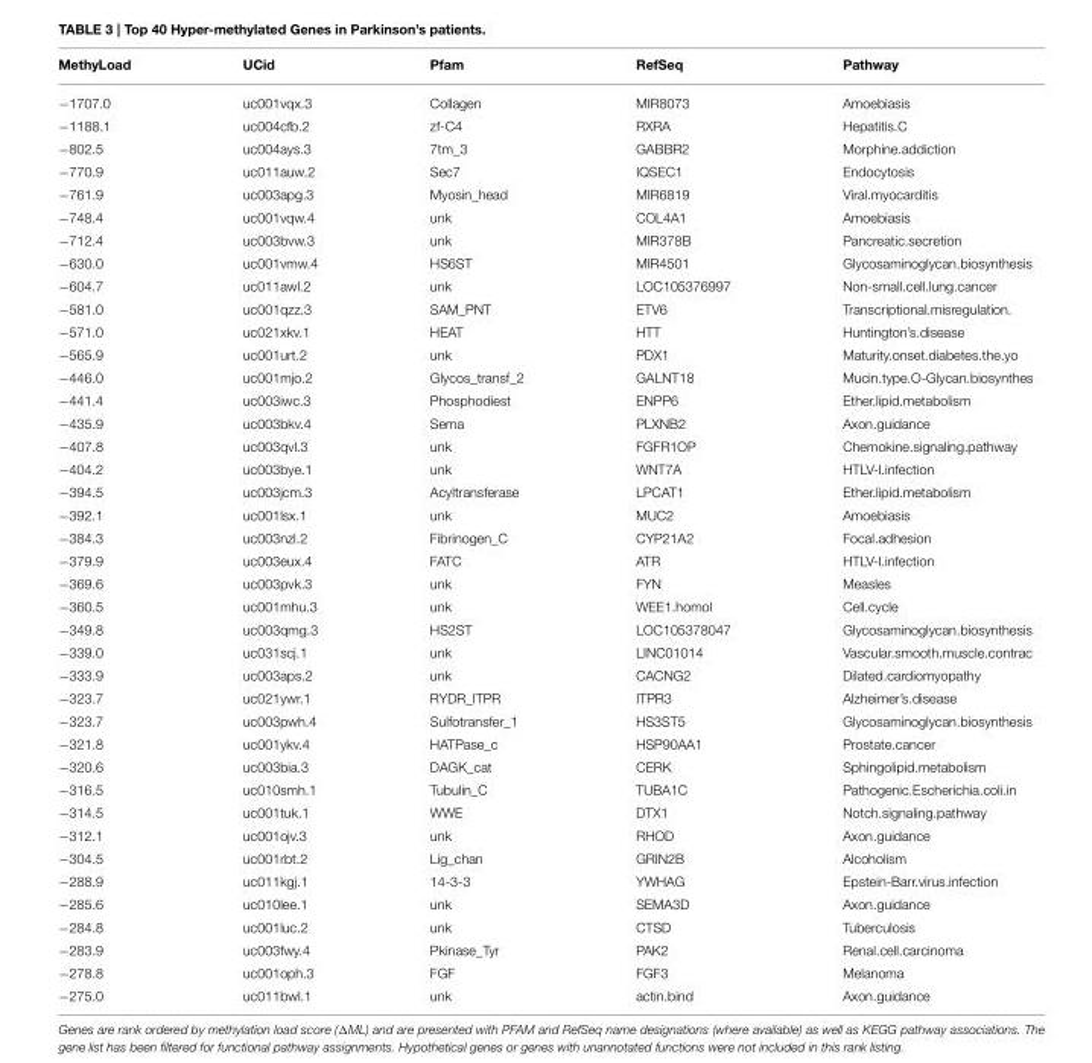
<table><thead><tr><td>MethyLoad</td><td>UCid</td><td>Pfam</td><td>RefSeq</td><td>Pathway</td></tr></thead><tbody><tr><td>−1707.0</td><td>uc001vqx.3</td><td>Collagen</td><td>MIR8073</td><td>Amoebiasis</td></tr><tr><td>−1188.1</td><td>uc004cfb.2</td><td>zf-C4</td><td>RXRA</td><td>Hepatitis.C</td></tr><tr><td>−802.5</td><td>uc004ays.3</td><td>7tm_3</td><td>GABBR2</td><td>Morphine.addiction</td></tr><tr><td>−770.9</td><td>uc011auw.2</td><td>Sec7</td><td>IQSEC1</td><td>Endocytosis</td></tr><tr><td>−761.9</td><td>uc003apg.3</td><td>Myosin_head</td><td>MIR6819</td><td>Viral.myocarditis</td></tr><tr><td>−748.4</td><td>uc001vqw.4</td><td>unk</td><td>COL4A1</td><td>Amoebiasis</td></tr><tr><td>−712.4</td><td>uc003bvw.3</td><td>unk</td><td>MIR378B</td><td>Pancreatic.secretion</td></tr><tr><td>−630.0</td><td>uc001vmw.4</td><td>HS6ST</td><td>MIR4501</td><td>Glycosaminoglycan.biosynthesis</td></tr><tr><td>−604.7</td><td>uc011awl.2</td><td>unk</td><td>LOC105376997</td><td>Non-small.cell.lung.cancer</td></tr><tr><td>−581.0</td><td>uc001qzz.3</td><td>SAM_PNT</td><td>ETV6</td><td>Transcriptional.misregulation.</td></tr><tr><td>−571.0</td><td>uc021xkv.1</td><td>HEAT</td><td>HTT</td><td>Huntington’s.disease</td></tr><tr><td>−565.9</td><td>uc001urt.2</td><td>unk</td><td>PDX1</td><td>Maturity.onset.diabetes.the.yo</td></tr><tr><td>−446.0</td><td>uc001mjo.2</td><td>Glycos_transf_2</td><td>GALNT18</td><td>Mucin.type.O-Glycan.biosynthes</td></tr><tr><td>−441.4</td><td>uc003iwc.3</td><td>Phosphodiest</td><td>ENPP6</td><td>Ether.lipid.metabolism</td></tr><tr><td>−435.9</td><td>uc003bkv.4</td><td>Sema</td><td>PLXNB2</td><td>Axon.guidance</td></tr><tr><td>−407.8</td><td>uc003qvl.3</td><td>unk</td><td>FGFR1OP</td><td>Chemokine.signaling.pathway</td></tr><tr><td>−404.2</td><td>uc003bye.1</td><td>unk</td><td>WNT7A</td><td>HTLV-I.infection</td></tr><tr><td>−394.5</td><td>uc003jcm.3</td><td>Acyltransferase</td><td>LPCAT1</td><td>Ether.lipid.metabolism</td></tr><tr><td>−392.1</td><td>uc001lsx.1</td><td>unk</td><td>MUC2</td><td>Amoebiasis</td></tr><tr><td>−384.3</td><td>uc003nzl.2</td><td>Fibrinogen_C</td><td>CYP21A2</td><td>Focal.adhesion</td></tr><tr><td>−379.9</td><td>uc003eux.4</td><td>FATC</td><td>ATR</td><td>HTLV-I.infection</td></tr><tr><td>−369.6</td><td>uc003pvk.3</td><td>unk</td><td>FYN</td><td>Measles</td></tr><tr><td>−360.5</td><td>uc001mhu.3</td><td>unk</td><td>WEE1.homol</td><td>Cell.cycle</td></tr><tr><td>−349.8</td><td>uc003qmg.3</td><td>HS2ST</td><td>LOC105378047</td><td>Glycosaminoglycan.biosynthesis</td></tr><tr><td>−339.0</td><td>uc031scj.1</td><td>unk</td><td>LINC01014</td><td>Vascular.smooth.muscle.contrac</td></tr><tr><td>−333.9</td><td>uc003aps.2</td><td>unk</td><td>CACNG2</td><td>Dilated.cardiomyopathy</td></tr><tr><td>−323.7</td><td>uc021ywr.1</td><td>RYDR_ITPR</td><td>ITPR3</td><td>Alzheimer’s.disease</td></tr><tr><td>−323.7</td><td>uc003pwh.4</td><td>Sulfotransfer_1</td><td>HS3ST5</td><td>Glycosaminoglycan.biosynthesis</td></tr><tr><td>−321.8</td><td>uc001ykv.4</td><td>HATPase_c</td><td>HSP90AA1</td><td>Prostate.cancer</td></tr><tr><td>−320.6</td><td>uc003bia.3</td><td>DAGK_cat</td><td>CERK</td><td>Sphingolipid.metabolism</td></tr><tr><td>−316.5</td><td>uc010smh.1</td><td>Tubulin_C</td><td>TUBA1C</td><td>Pathogenic.Escherichia.coli.in</td></tr><tr><td>−314.5</td><td>uc001tuk.1</td><td>WWE</td><td>DTX1</td><td>Notch.signaling.pathway</td></tr><tr><td>−312.1</td><td>uc001ojv.3</td><td>unk</td><td>RHOD</td><td>Axon.guidance</td></tr><tr><td>−304.5</td><td>uc001rbt.2</td><td>Lig_chan</td><td>GRIN2B</td><td>Alcoholism</td></tr><tr><td>−288.9</td><td>uc011kgj.1</td><td>14-3-3</td><td>YWHAG</td><td>Epstein-Barr.virus.infection</td></tr><tr><td>−285.6</td><td>uc010lee.1</td><td>unk</td><td>SEMA3D</td><td>Axon.guidance</td></tr><tr><td>−284.8</td><td>uc001luc.2</td><td>unk</td><td>CTSD</td><td>Tuberculosis</td></tr><tr><td>−283.9</td><td>uc003fwy.4</td><td>Pkinase_Tyr</td><td>PAK2</td><td>Renal.cell.carcinoma</td></tr><tr><td>−278.8</td><td>uc001oph.3</td><td>FGF</td><td>FGF3</td><td>Melanoma</td></tr><tr><td>−275.0</td><td>uc011bwl.1</td><td>unk</td><td>actin.bind</td><td>Axon.guidance</td></tr></tbody></table>